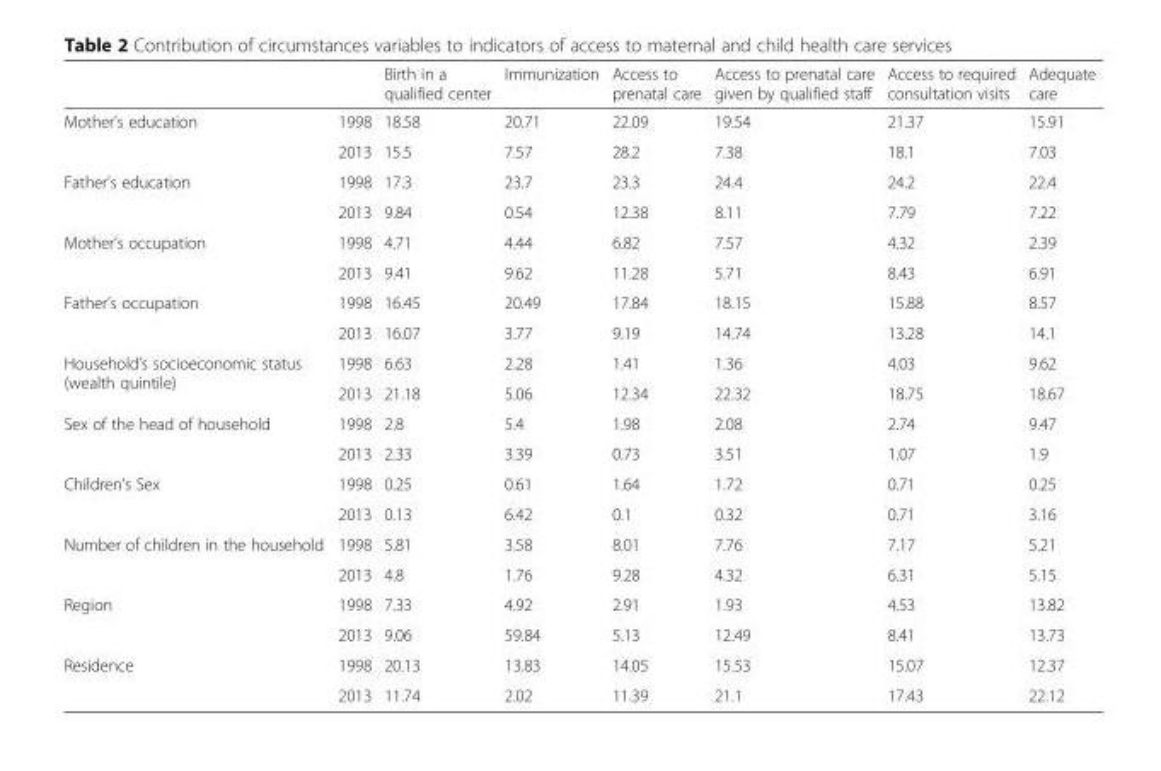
<table><thead><tr><td></td><td></td><td>Birth in a qualified center</td><td>Immunization</td><td>Access to prenatal care</td><td>Access to prenatal care given by qualified staff</td><td>Access to required consultation visits</td><td>Adequate care</td></tr></thead><tbody><tr><td rowspan="2">Mother’s education</td><td>1998</td><td>18.58</td><td>20.71</td><td>22.09</td><td>19.54</td><td>21.37</td><td>15.91</td></tr><tr><td>2013</td><td>15.5</td><td>7.57</td><td>28.2</td><td>7.38</td><td>18.1</td><td>7.03</td></tr><tr><td rowspan="2">Father’s education</td><td>1998</td><td>17.3</td><td>23.7</td><td>23.3</td><td>24.4</td><td>24.2</td><td>22.4</td></tr><tr><td>2013</td><td>9.84</td><td>0.54</td><td>12.38</td><td>8.11</td><td>7.79</td><td>7.22</td></tr><tr><td rowspan="2">Mother’s occupation</td><td>1998</td><td>4.71</td><td>4.44</td><td>6.82</td><td>7.57</td><td>4.32</td><td>2.39</td></tr><tr><td>2013</td><td>9.41</td><td>9.62</td><td>11.28</td><td>5.71</td><td>8.43</td><td>6.91</td></tr><tr><td rowspan="2">Father’s occupation</td><td>1998</td><td>16.45</td><td>20.49</td><td>17.84</td><td>18.15</td><td>15.88</td><td>8.57</td></tr><tr><td>2013</td><td>16.07</td><td>3.77</td><td>9.19</td><td>14.74</td><td>13.28</td><td>14.1</td></tr><tr><td rowspan="2">Household’s socioeconomic status (wealth quintile)</td><td>1998</td><td>6.63</td><td>2.28</td><td>1.41</td><td>1.36</td><td>4.03</td><td>9.62</td></tr><tr><td>2013</td><td>21.18</td><td>5.06</td><td>12.34</td><td>22.32</td><td>18.75</td><td>18.67</td></tr><tr><td rowspan="2">Sex of the head of household</td><td>1998</td><td>2.8</td><td>5.4</td><td>1.98</td><td>2.08</td><td>2.74</td><td>9.47</td></tr><tr><td>2013</td><td>2.33</td><td>3.39</td><td>0.73</td><td>3.51</td><td>1.07</td><td>1.9</td></tr><tr><td rowspan="2">Children’s Sex</td><td>1998</td><td>0.25</td><td>0.61</td><td>1.64</td><td>1.72</td><td>0.71</td><td>0.25</td></tr><tr><td>2013</td><td>0.13</td><td>6.42</td><td>0.1</td><td>0.32</td><td>0.71</td><td>3.16</td></tr><tr><td rowspan="2">Number of children in the household</td><td>1998</td><td>5.81</td><td>3.58</td><td>8.01</td><td>7.76</td><td>7.17</td><td>5.21</td></tr><tr><td>2013</td><td>4.8</td><td>1.76</td><td>9.28</td><td>4.32</td><td>6.31</td><td>5.15</td></tr><tr><td rowspan="2">Region</td><td>1998</td><td>7.33</td><td>4.92</td><td>2.91</td><td>1.93</td><td>4.53</td><td>13.82</td></tr><tr><td>2013</td><td>9.06</td><td>59.84</td><td>5.13</td><td>12.49</td><td>8.41</td><td>13.73</td></tr><tr><td rowspan="2">Residence</td><td>1998</td><td>20.13</td><td>13.83</td><td>14.05</td><td>15.53</td><td>15.07</td><td>12.37</td></tr><tr><td>2013</td><td>11.74</td><td>2.02</td><td>11.39</td><td>21.1</td><td>17.43</td><td>22.12</td></tr></tbody></table>